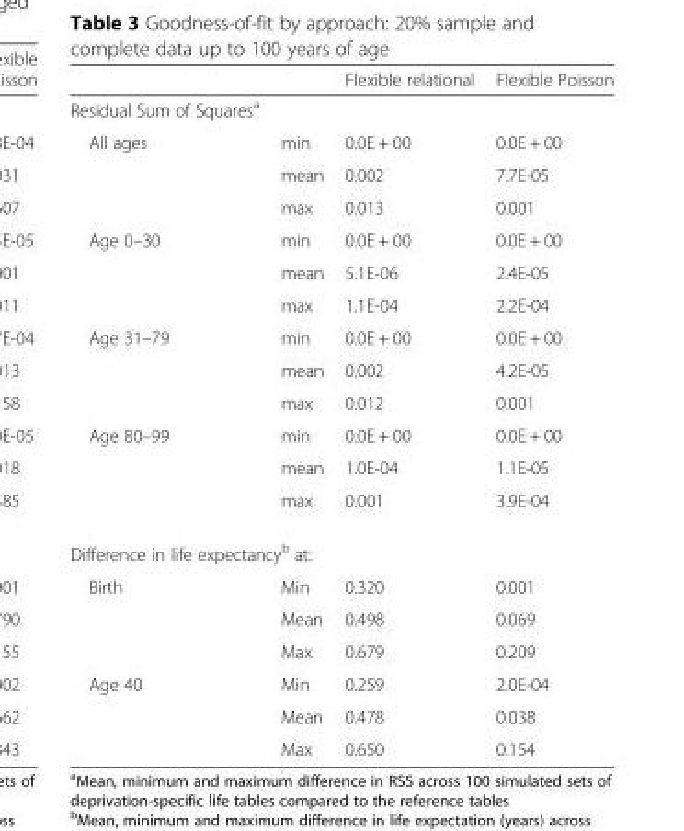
<table><thead><tr><td></td><td></td><td>Flexible relational</td><td>Flexible Poisson</td></tr></thead><tbody><tr><td colspan="4">Residual Sum of Squares<sup>a</sup></td></tr><tr><td rowspan="3">All ages</td><td>min</td><td>0.0E + 00</td><td>0.0E + 00</td></tr><tr><td>mean</td><td>0.002</td><td>7.7E-05</td></tr><tr><td>max</td><td>0.013</td><td>0.001</td></tr><tr><td rowspan="3">Age 0–30</td><td>min</td><td>0.0E + 00</td><td>0.0E + 00</td></tr><tr><td>mean</td><td>5.1E-06</td><td>2.4E-05</td></tr><tr><td>max</td><td>1.1E-04</td><td>2.2E-04</td></tr><tr><td rowspan="3">Age 31–79</td><td>min</td><td>0.0E + 00</td><td>0.0E + 00</td></tr><tr><td>mean</td><td>0.002</td><td>4.2E-05</td></tr><tr><td>max</td><td>0.012</td><td>0.001</td></tr><tr><td rowspan="3">Age 80–99</td><td>min</td><td>0.0E + 00</td><td>0.0E + 00</td></tr><tr><td>mean</td><td>1.0E-04</td><td>1.1E-05</td></tr><tr><td>max</td><td>0.001</td><td>3.9E-04</td></tr><tr><td colspan="4">Difference in life expectancy<sup>b</sup> at:</td></tr><tr><td rowspan="3">Birth</td><td>Min</td><td>0.320</td><td>0.001</td></tr><tr><td>Mean</td><td>0.498</td><td>0.069</td></tr><tr><td>Max</td><td>0.679</td><td>0.209</td></tr><tr><td rowspan="3">Age 40</td><td>Min</td><td>0.259</td><td>2.0E-04</td></tr><tr><td>Mean</td><td>0.478</td><td>0.038</td></tr><tr><td>Max</td><td>0.650</td><td>0.154</td></tr></tbody></table>